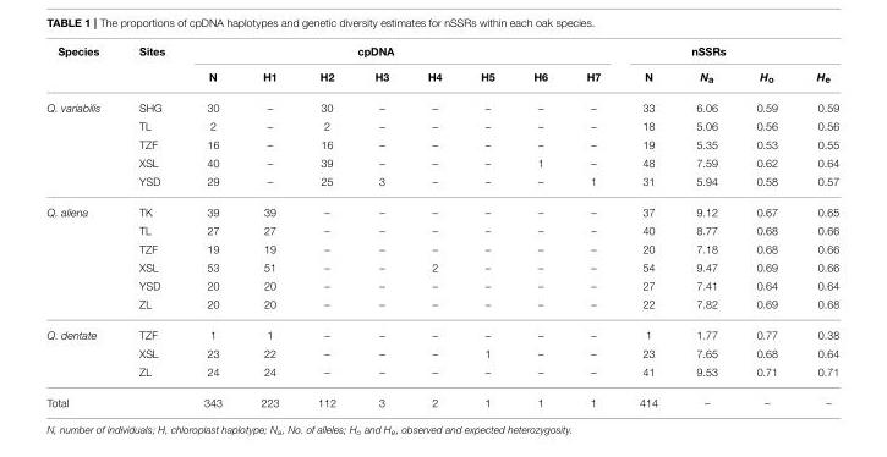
<table><thead><tr><td rowspan="2">Species</td><td rowspan="2">Sites</td><td colspan="7">cpDNA</td><td colspan="5">nSSRs</td></tr><tr><td>N</td><td>H1</td><td>H2</td><td>H3</td><td>H4</td><td>H5</td><td>H6</td><td>H7</td><td>N</td><td>N<sub>a</sub></td><td>H<sub>o</sub></td><td>H<sub>e</sub></td></tr></thead><tbody><tr><td rowspan="5">Q. variabilis</td><td>SHG</td><td>30</td><td>–</td><td>30</td><td>–</td><td>–</td><td>–</td><td>–</td><td>–</td><td>33</td><td>6.06</td><td>0.59</td><td>0.59</td></tr><tr><td>TL</td><td>2</td><td>–</td><td>2</td><td>–</td><td>–</td><td>–</td><td>–</td><td>–</td><td>18</td><td>5.06</td><td>0.56</td><td>0.56</td></tr><tr><td>TZF</td><td>16</td><td>–</td><td>16</td><td>–</td><td>–</td><td>–</td><td>–</td><td>–</td><td>19</td><td>5.35</td><td>0.53</td><td>0.55</td></tr><tr><td>XSL</td><td>40</td><td>–</td><td>39</td><td>–</td><td>–</td><td>–</td><td>1</td><td>–</td><td>48</td><td>7.59</td><td>0.62</td><td>0.64</td></tr><tr><td>YSD</td><td>29</td><td>–</td><td>25</td><td>3</td><td>–</td><td>–</td><td>–</td><td>1</td><td>31</td><td>5.94</td><td>0.58</td><td>0.57</td></tr><tr><td rowspan="6">Q. aliena</td><td>TK</td><td>39</td><td>39</td><td>–</td><td>–</td><td>–</td><td>–</td><td>–</td><td>–</td><td>37</td><td>9.12</td><td>0.67</td><td>0.65</td></tr><tr><td>TL</td><td>27</td><td>27</td><td>–</td><td>–</td><td>–</td><td>–</td><td>–</td><td>–</td><td>40</td><td>8.77</td><td>0.68</td><td>0.66</td></tr><tr><td>TZF</td><td>19</td><td>19</td><td>–</td><td>–</td><td>–</td><td>–</td><td>–</td><td>–</td><td>20</td><td>7.18</td><td>0.68</td><td>0.66</td></tr><tr><td>XSL</td><td>53</td><td>51</td><td>–</td><td>–</td><td>2</td><td>–</td><td>–</td><td>–</td><td>54</td><td>9.47</td><td>0.69</td><td>0.66</td></tr><tr><td>YSD</td><td>20</td><td>20</td><td>–</td><td>–</td><td>–</td><td>–</td><td>–</td><td>–</td><td>27</td><td>7.41</td><td>0.64</td><td>0.64</td></tr><tr><td>ZL</td><td>20</td><td>20</td><td>–</td><td>–</td><td>–</td><td>–</td><td>–</td><td>–</td><td>22</td><td>7.82</td><td>0.69</td><td>0.68</td></tr><tr><td rowspan="3">Q. dentate</td><td>TZF</td><td>1</td><td>1</td><td>–</td><td>–</td><td>–</td><td>–</td><td>–</td><td>–</td><td>1</td><td>1.77</td><td>0.77</td><td>0.38</td></tr><tr><td>XSL</td><td>23</td><td>22</td><td>–</td><td>–</td><td>–</td><td>1</td><td>–</td><td>–</td><td>23</td><td>7.65</td><td>0.68</td><td>0.64</td></tr><tr><td>ZL</td><td>24</td><td>24</td><td>–</td><td>–</td><td>–</td><td>–</td><td>–</td><td>–</td><td>41</td><td>9.53</td><td>0.71</td><td>0.71</td></tr><tr><td>Total</td><td></td><td>343</td><td>223</td><td>112</td><td>3</td><td>2</td><td>1</td><td>1</td><td>1</td><td>414</td><td>–</td><td>–</td><td>–</td></tr></tbody></table>